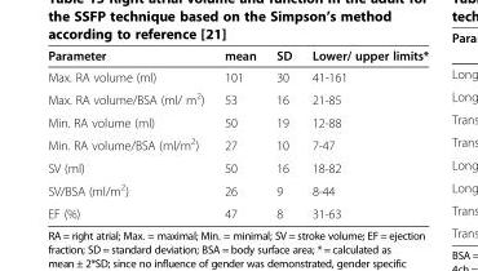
<table><thead><tr><td>Parameter</td><td>mean</td><td>SD</td><td>Lower/ upper limits*</td></tr></thead><tbody><tr><td>Max. RA volume (ml)</td><td>101</td><td>30</td><td>41-161</td></tr><tr><td>Max. RA volume/BSA (ml/ m<sup>2</sup>)</td><td>53</td><td>16</td><td>21-85</td></tr><tr><td>Min. RA volume (ml)</td><td>50</td><td>19</td><td>12-88</td></tr><tr><td>Min. RA volume/BSA (ml/m<sup>2</sup>)</td><td>27</td><td>10</td><td>7-47</td></tr><tr><td>SV (ml)</td><td>50</td><td>16</td><td>18-82</td></tr><tr><td>SV/BSA (ml/m<sup>2</sup>)</td><td>26</td><td>9</td><td>8-44</td></tr><tr><td>EF (%)</td><td>47</td><td>8</td><td>31-63</td></tr></tbody></table>